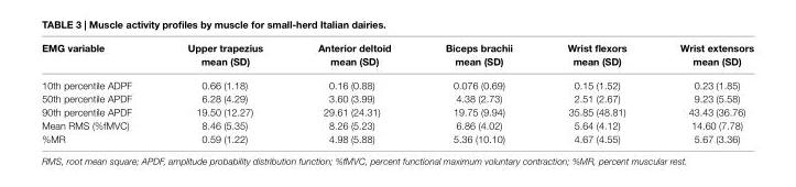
<table><thead><tr><td>eMg variable</td><td>Upper trapezius mean (sD)</td><td>anterior deltoid mean (sD)</td><td>Biceps brachii mean (sD)</td><td>Wrist flexors mean (sD)</td><td>Wrist extensors mean (sD)</td></tr></thead><tbody><tr><td>10th percentile ADPF</td><td>0.66 (1.18)</td><td>0.16 (0.88)</td><td>0.076 (0.69)</td><td>0.15 (1.52)</td><td>0.23 (1.85)</td></tr><tr><td>50th percentile APDF</td><td>6.28 (4.29)</td><td>3.60 (3.99)</td><td>4.38 (2.73)</td><td>2.51 (2.67)</td><td>9.23 (5.58)</td></tr><tr><td>90th percentile APDF</td><td>19.50 (12.27)</td><td>29.61 (24.31)</td><td>19.75 (9.94)</td><td>35.85 (48.81)</td><td>43.43 (36.76)</td></tr><tr><td>Mean RMS (%fMVC)</td><td>8.46 (5.35)</td><td>8.26 (5.23)</td><td>6.86 (4.02)</td><td>5.64 (4.12)</td><td>14.60 (7.78)</td></tr><tr><td>%MR</td><td>0.59 (1.22)</td><td>4.98 (5.88)</td><td>5.36 (10.10)</td><td>4.67 (4.55)</td><td>5.67 (3.36)</td></tr></tbody></table>